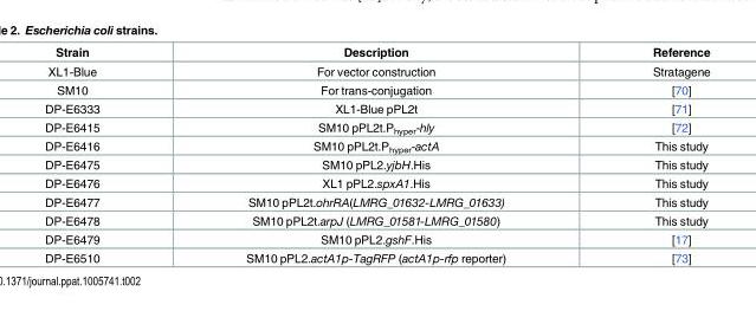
<table><thead><tr><td>Strain</td><td>Description</td><td>Reference</td></tr></thead><tbody><tr><td>XL1-Blue</td><td>For vector construction</td><td>Stratagene</td></tr><tr><td>SM10</td><td>For trans-conjugation</td><td>[70]</td></tr><tr><td>DP-E6333</td><td>XL1-Blue pPL2t</td><td>[71]</td></tr><tr><td>DP-E6415</td><td>SM10 pPL2t.P<sub>hyper</sub>-hly</td><td>[72]</td></tr><tr><td>DP-E6416</td><td>SM10 pPL2t.P<sub>hyper</sub>-actA</td><td>This study</td></tr><tr><td>DP-E6475</td><td>SM10 pPL2.yjbH.His</td><td>This study</td></tr><tr><td>DP-E6476</td><td>XL1 pPL2.spxA1.His</td><td>This study</td></tr><tr><td>DP-E6477</td><td>SM10 pPL2t.ohrRA(LMRG_01632-LMRG_01633)</td><td>This study</td></tr><tr><td>DP-E6478</td><td>SM10 pPL2t.arpJ (LMRG_01581-LMRG_01580)</td><td>This study</td></tr><tr><td>DP-E6479</td><td>SM10 pPL2.gshF.His</td><td>[17]</td></tr><tr><td>DP-E6510</td><td>SM10 pPL2.actA1p-TagRFP (actA1p-rfp reporter)</td><td>[73]</td></tr></tbody></table>